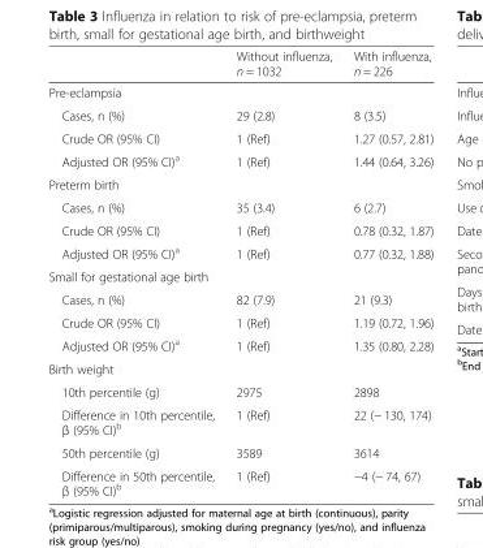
<table><thead><tr><td></td><td>Without influenza, n = 1032</td><td>With influenza, n = 226</td></tr></thead><tbody><tr><td colspan="3">Pre-eclampsia</td></tr><tr><td>Cases, n (%)</td><td>29 (2.8)</td><td>8 (3.5)</td></tr><tr><td>Crude OR (95% CI)</td><td>1 (Ref)</td><td>1.27 (0.57, 2.81)</td></tr><tr><td>Adjusted OR (95% CI)<sup>a</sup></td><td>1 (Ref)</td><td>1.44 (0.64, 3.26)</td></tr><tr><td colspan="3">Preterm birth</td></tr><tr><td>Cases, n (%)</td><td>35 (3.4)</td><td>6 (2.7)</td></tr><tr><td>Crude OR (95% CI)</td><td>1 (Ref)</td><td>0.78 (0.32, 1.87)</td></tr><tr><td>Adjusted OR (95% CI)<sup>a</sup></td><td>1 (Ref)</td><td>0.77 (0.32, 1.88)</td></tr><tr><td colspan="3">Small for gestational age birth</td></tr><tr><td>Cases, n (%)</td><td>82 (7.9)</td><td>21 (9.3)</td></tr><tr><td>Crude OR (95% CI)</td><td>1 (Ref)</td><td>1.19 (0.72, 1.96)</td></tr><tr><td>Adjusted OR (95% CI)<sup>a</sup></td><td>1 (Ref)</td><td>1.35 (0.80, 2.28)</td></tr><tr><td colspan="3">Birth weight</td></tr><tr><td>10th percentile (g)</td><td>2975</td><td>2898</td></tr><tr><td>Difference in 10th percentile, β (95% CI)<sup>b</sup></td><td>1 (Ref)</td><td>22 (− 130, 174)</td></tr><tr><td>50th percentile (g)</td><td>3589</td><td>3614</td></tr><tr><td>Difference in 50th percentile, β (95% CI)<sup>b</sup></td><td>1 (Ref)</td><td>−4 (− 74, 67)</td></tr></tbody></table>